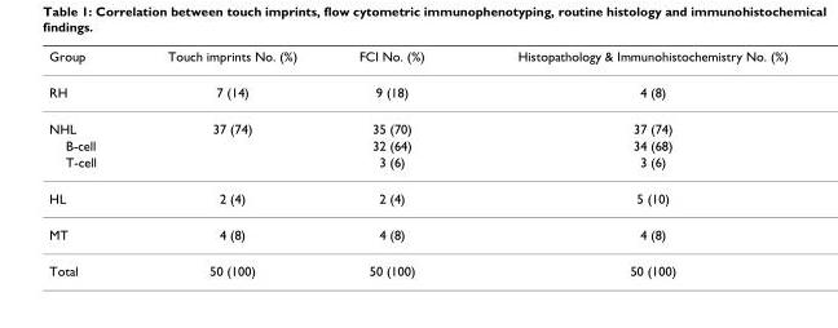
<table><thead><tr><td>Group</td><td>Touch imprints No. (%)</td><td>FCI No. (%)</td><td>Histopathology &amp; Immunohistochemistry No. (%)</td></tr></thead><tbody><tr><td>RH</td><td>7 (14)</td><td>9 (18)</td><td>4 (8)</td></tr><tr><td>NHL</td><td>37 (74)</td><td>35 (70)</td><td>37 (74)</td></tr><tr><td>B-cell</td><td></td><td>32 (64)</td><td>34 (68)</td></tr><tr><td>T-cell</td><td></td><td>3 (6)</td><td>3 (6)</td></tr><tr><td>HL</td><td>2 (4)</td><td>2 (4)</td><td>5 (10)</td></tr><tr><td>MT</td><td>4 (8)</td><td>4 (8)</td><td>4 (8)</td></tr><tr><td>Total</td><td>50 (100)</td><td>50 (100)</td><td>50 (100)</td></tr></tbody></table>